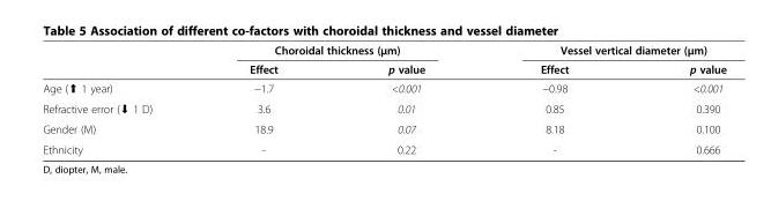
<table><thead><tr><td rowspan="2"></td><td colspan="2">Choroidal thickness (μm)</td><td colspan="2">Vessel vertical diameter (μm)</td></tr><tr><td>Effect</td><td>p value</td><td>Effect</td><td>p value</td></tr></thead><tbody><tr><td>Age (⬆ 1 year)</td><td>−1.7</td><td>&lt;0.001</td><td>−0.98</td><td>&lt;0.001</td></tr><tr><td>Refractive error (⬇ 1 D)</td><td>3.6</td><td>0.01</td><td>0.85</td><td>0.390</td></tr><tr><td>Gender (M)</td><td>18.9</td><td>0.07</td><td>8.18</td><td>0.100</td></tr><tr><td>Ethnicity</td><td>-</td><td>0.22</td><td>-</td><td>0.666</td></tr></tbody></table>